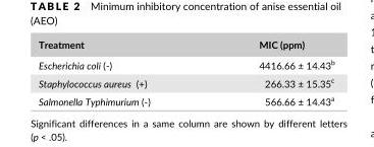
<table><thead><tr><td>Treatment</td><td>MIC (ppm)</td></tr></thead><tbody><tr><td>Escherichia coli (- )</td><td>4416.66 ± 14.43<sup>b</sup></td></tr><tr><td>Staphylococcus aureus (+)</td><td>266.33 ± 15.35<sup>c</sup></td></tr><tr><td>Salmonella Typhimurium (- )</td><td>566.66 ± 14.43<sup>a</sup></td></tr></tbody></table>